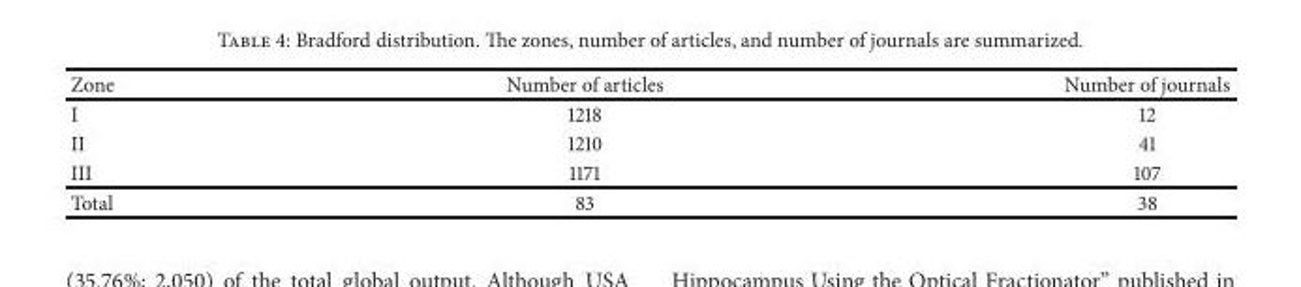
<table><thead><tr><td>Zone</td><td>Number of articles</td><td>Number of journals</td></tr></thead><tbody><tr><td>I</td><td>1218</td><td>12</td></tr><tr><td>II</td><td>1210</td><td>41</td></tr><tr><td>III</td><td>1171</td><td>107</td></tr><tr><td>Total</td><td>83</td><td>38</td></tr></tbody></table>